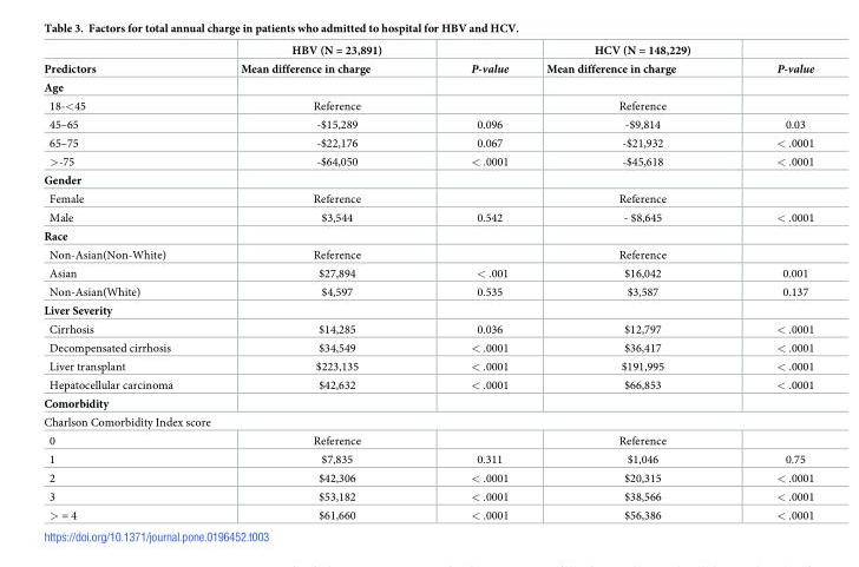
<table><thead><tr><td rowspan="2">Predictors</td><td rowspan="2">HBV (N = 23,891) Mean difference in charge</td><td rowspan="2">P-value</td><td rowspan="2">HCV (N = 148,229) Mean difference in charge</td><td rowspan="2">P-value</td></tr><tr></tr></thead><tbody><tr><td colspan="5">Age</td></tr><tr><td>18-&lt;45</td><td>Reference</td><td></td><td>Reference</td><td></td></tr><tr><td>45–65</td><td>-$15,289</td><td>0.096</td><td>-$9,814</td><td>0.03</td></tr><tr><td>65–75</td><td>-$22,176</td><td>0.067</td><td>-$21,932</td><td>&lt; .0001</td></tr><tr><td>&gt;-75</td><td>-$64,050</td><td>&lt; .0001</td><td>-$45,618</td><td>&lt; .0001</td></tr><tr><td colspan="5">Gender</td></tr><tr><td>Female</td><td>Reference</td><td></td><td>Reference</td><td></td></tr><tr><td>Male</td><td>$3,544</td><td>0.542</td><td>- $8,645</td><td>&lt; .0001</td></tr><tr><td colspan="5">Race</td></tr><tr><td>Non-Asian(Non-White)</td><td>Reference</td><td></td><td>Reference</td><td></td></tr><tr><td>Asian</td><td>$27,894</td><td>&lt; .001</td><td>$16,042</td><td>0.001</td></tr><tr><td>Non-Asian(White)</td><td>$4,597</td><td>0.535</td><td>$3,587</td><td>0.137</td></tr><tr><td colspan="5">Liver Severity</td></tr><tr><td>Cirrhosis</td><td>$14,285</td><td>0.036</td><td>$12,797</td><td>&lt; .0001</td></tr><tr><td>Decompensated cirrhosis</td><td>$34,549</td><td>&lt; .0001</td><td>$36,417</td><td>&lt; .0001</td></tr><tr><td>Liver transplant</td><td>$223,135</td><td>&lt; .0001</td><td>$191,995</td><td>&lt; .0001</td></tr><tr><td>Hepatocellular carcinoma</td><td>$42,632</td><td>&lt; .0001</td><td>$66,853</td><td>&lt; .0001</td></tr><tr><td colspan="5">Comorbidity</td></tr><tr><td colspan="5">Charlson Comorbidity Index score</td></tr><tr><td>0</td><td>Reference</td><td></td><td>Reference</td><td></td></tr><tr><td>1</td><td>$7,835</td><td>0.311</td><td>$1,046</td><td>0.75</td></tr><tr><td>2</td><td>$42,306</td><td>&lt; .0001</td><td>$20,315</td><td>&lt; .0001</td></tr><tr><td>3</td><td>$53,182</td><td>&lt; .0001</td><td>$38,566</td><td>&lt; .0001</td></tr><tr><td>&gt; = 4</td><td>$61,660</td><td>&lt; .0001</td><td>$56,386</td><td>&lt; .0001</td></tr></tbody></table>